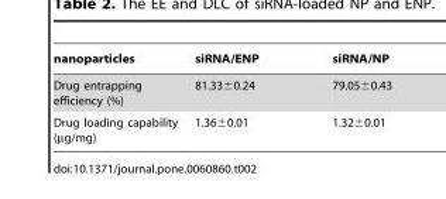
<table><thead><tr><td>nanoparticles</td><td>siRNA/ENP</td><td>siRNA/NP</td></tr></thead><tbody><tr><td>Drug entrapping efficiency (%)</td><td>81.33±0.24</td><td>79.05±0.43</td></tr><tr><td>Drug loading capability (µg/mg)</td><td>1.36±0.01</td><td>1.32±0.01</td></tr></tbody></table>